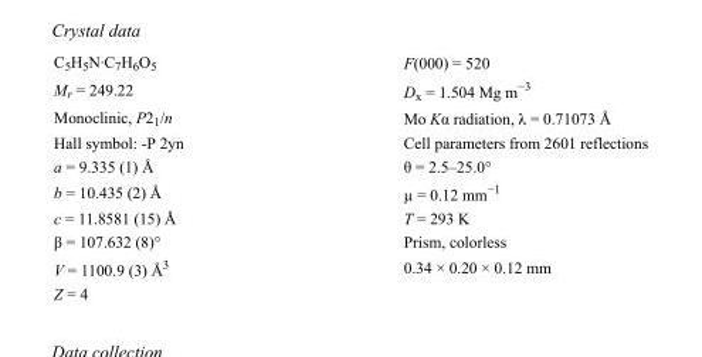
<table><tbody><tr><td>C<sub>5</sub>H<sub>5</sub>N·C<sub>7</sub>H<sub>6</sub>O<sub>5</sub></td><td>F(000) = 520</td></tr><tr><td>M<sub>r</sub> = 249.22</td><td>D<sub>x</sub> = 1.504 Mg m<sup>−3</sup></td></tr><tr><td>Monoclinic, P2<sub>1</sub>/n</td><td>Mo Kα radiation, λ = 0.71073 Å</td></tr><tr><td>Hall symbol: -P 2yn</td><td>Cell parameters from 2601 reflections</td></tr><tr><td>a = 9.335 (1) Å</td><td>θ = 2.5–25.0°</td></tr><tr><td>b = 10.435 (2) Å</td><td>µ = 0.12 mm<sup>−1</sup></td></tr><tr><td>c = 11.8581 (15) Å</td><td>T = 293 K</td></tr><tr><td>β = 107.632 (8)°</td><td>Prism, colorless</td></tr><tr><td>V = 1100.9 (3) Å<sup>3</sup></td><td>0.34 × 0.20 × 0.12 mm</td></tr><tr><td>Z = 4</td><td></td></tr></tbody></table>